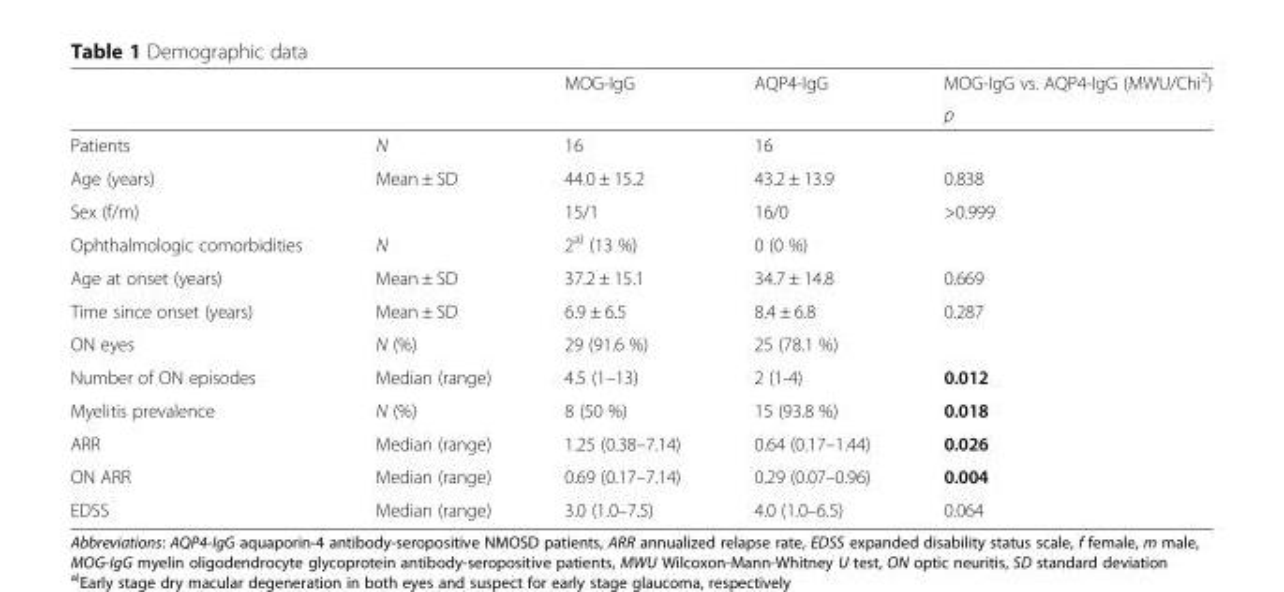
<table><thead><tr><td rowspan="2"></td><td rowspan="2"></td><td rowspan="2">MOG-IgG</td><td rowspan="2">AQP4-IgG</td><td rowspan="2">MOG-IgG vs. AQP4-IgG (MWU/Chi<sup>2</sup>) p</td></tr><tr></tr></thead><tbody><tr><td>Patients</td><td>N</td><td>16</td><td>16</td><td></td></tr><tr><td>Age (years)</td><td>Mean ± SD</td><td>44.0 ± 15.2</td><td>43.2 ± 13.9</td><td>0.838</td></tr><tr><td>Sex (f/m)</td><td></td><td>15/1</td><td>16/0</td><td>&gt;0.999</td></tr><tr><td>Ophthalmologic comorbidities</td><td>N</td><td>2<sup>a)</sup> (13 %)</td><td>0 (0 %)</td><td></td></tr><tr><td>Age at onset (years)</td><td>Mean ± SD</td><td>37.2 ± 15.1</td><td>34.7 ± 14.8</td><td>0.669</td></tr><tr><td>Time since onset (years)</td><td>Mean ± SD</td><td>6.9 ± 6.5</td><td>8.4 ± 6.8</td><td>0.287</td></tr><tr><td>ON eyes</td><td>N (%)</td><td>29 (91.6 %)</td><td>25 (78.1 %)</td><td></td></tr><tr><td>Number of ON episodes</td><td>Median (range)</td><td>4.5 (1–13)</td><td>2 (1-4)</td><td>0.012</td></tr><tr><td>Myelitis prevalence</td><td>N (%)</td><td>8 (50 %)</td><td>15 (93.8 %)</td><td>0.018</td></tr><tr><td>ARR</td><td>Median (range)</td><td>1.25 (0.38–7.14)</td><td>0.64 (0.17–1.44)</td><td>0.026</td></tr><tr><td>ON ARR</td><td>Median (range)</td><td>0.69 (0.17–7.14)</td><td>0.29 (0.07–0.96)</td><td>0.004</td></tr><tr><td>EDSS</td><td>Median (range)</td><td>3.0 (1.0–7.5)</td><td>4.0 (1.0–6.5)</td><td>0.064</td></tr></tbody></table>